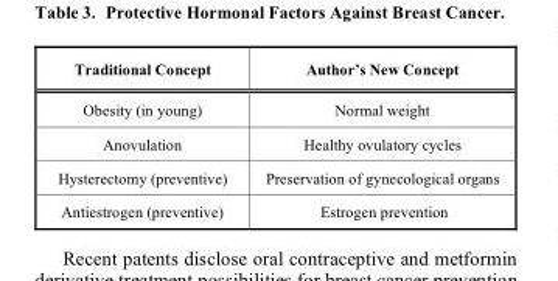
<table><thead><tr><td>Traditional Concept</td><td>Author’s New Concept</td></tr></thead><tbody><tr><td>Obesity (in young)</td><td>Normal weight</td></tr><tr><td>Anovulation</td><td>Healthy ovulatory cycles</td></tr><tr><td>Hysterectomy (preventive)</td><td>Preservation of gynecological organs</td></tr><tr><td>Antiestrogen (preventive)</td><td>Estrogen prevention</td></tr></tbody></table>